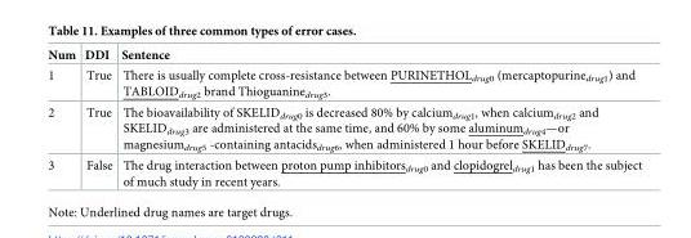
<table><thead><tr><td>Num</td><td>DDI</td><td>Sentence</td></tr></thead><tbody><tr><td>1</td><td>True</td><td>There is usually complete cross-resistance between PURINETHOL<sub>drug0</sub> (mercaptopurine<sub>drug1</sub>) and TABLOID<sub>drug2</sub> brand Thioguanine<sub>drug3</sub>.</td></tr><tr><td>2</td><td>True</td><td>The bioavailability of SKELID<sub>drug0</sub> is decreased 80% by calcium<sub>drug1</sub>, when calcium<sub>drug2</sub> and SKELID<sub>drug3</sub> are administered at the same time, and 60% by some aluminum<sub>drug4</sub>—or magnesium<sub>drug5</sub> -containing antacids<sub>drug6</sub>, when administered 1 hour before SKELID<sub>drug7</sub>.</td></tr><tr><td>3</td><td>False</td><td>The drug interaction between proton pump inhibitors<sub>drug0</sub> and clopidogrel<sub>drug1</sub> has been the subject of much study in recent years.</td></tr></tbody></table>